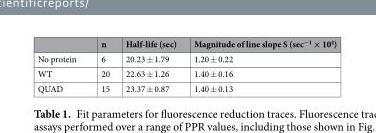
<table><thead><tr><td></td><td>n</td><td>Half-life (sec)</td><td>Magnitude of line slope S (sec<sup>−1</sup> × 10<sup>4</sup>)</td></tr></thead><tbody><tr><td>No protein</td><td>6</td><td>20.23 ± 1.79</td><td>1.20 ± 0.22</td></tr><tr><td>WT</td><td>20</td><td>22.63 ± 1.26</td><td>1.40 ± 0.16</td></tr><tr><td>QUAD</td><td>15</td><td>23.37 ± 0.87</td><td>1.40 ± 0.13</td></tr></tbody></table>